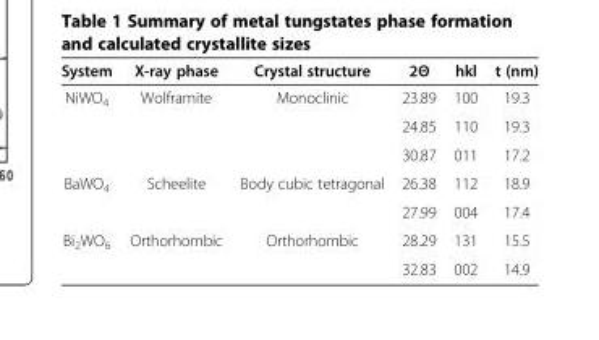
<table><thead><tr><td>System</td><td>X-ray phase</td><td>Crystal structure</td><td>2Θ</td><td>hkl</td><td>t (nm)</td></tr></thead><tbody><tr><td rowspan="3">NiWO<sub>4</sub></td><td rowspan="3">Wolframite</td><td rowspan="3">Monoclinic</td><td>23.89</td><td>100</td><td>19.3</td></tr><tr><td>24.85</td><td>110</td><td>19.3</td></tr><tr><td>30.87</td><td>011</td><td>17.2</td></tr><tr><td rowspan="2">BaWO<sub>4</sub></td><td rowspan="2">Scheelite</td><td rowspan="2">Body cubic tetragonal</td><td>26.38</td><td>112</td><td>18.9</td></tr><tr><td>27.99</td><td>004</td><td>17.4</td></tr><tr><td rowspan="2">Bi<sub>2</sub>WO<sub>6</sub></td><td>Orthorhombic</td><td>Orthorhombic</td><td>28.29</td><td>131</td><td>15.5</td></tr><tr><td></td><td></td><td>32.83</td><td>002</td><td>14.9</td></tr></tbody></table>